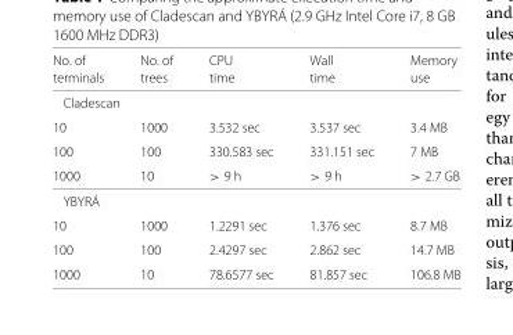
<table><thead><tr><td rowspan="2">No. of terminals</td><td rowspan="2">No. of trees</td><td rowspan="2">CPU time</td><td rowspan="2">Wall time</td><td rowspan="2">Memory use</td></tr><tr></tr></thead><tbody><tr><td colspan="5">Cladescan</td></tr><tr><td>10</td><td>1000</td><td>3.532 sec</td><td>3.537 sec</td><td>3.4 MB</td></tr><tr><td>100</td><td>100</td><td>330.583 sec</td><td>331.151 sec</td><td>7 MB</td></tr><tr><td>1000</td><td>10</td><td>&gt; 9 h</td><td>&gt; 9 h</td><td>&gt; 2.7 GB</td></tr><tr><td colspan="5">YBYRÁ</td></tr><tr><td>10</td><td>1000</td><td>1.2291 sec</td><td>1.376 sec</td><td>8.7 MB</td></tr><tr><td>100</td><td>100</td><td>2.4297 sec</td><td>2.862 sec</td><td>14.7 MB</td></tr><tr><td>1000</td><td>10</td><td>78.6577 sec</td><td>81.857 sec</td><td>106.8 MB</td></tr></tbody></table>